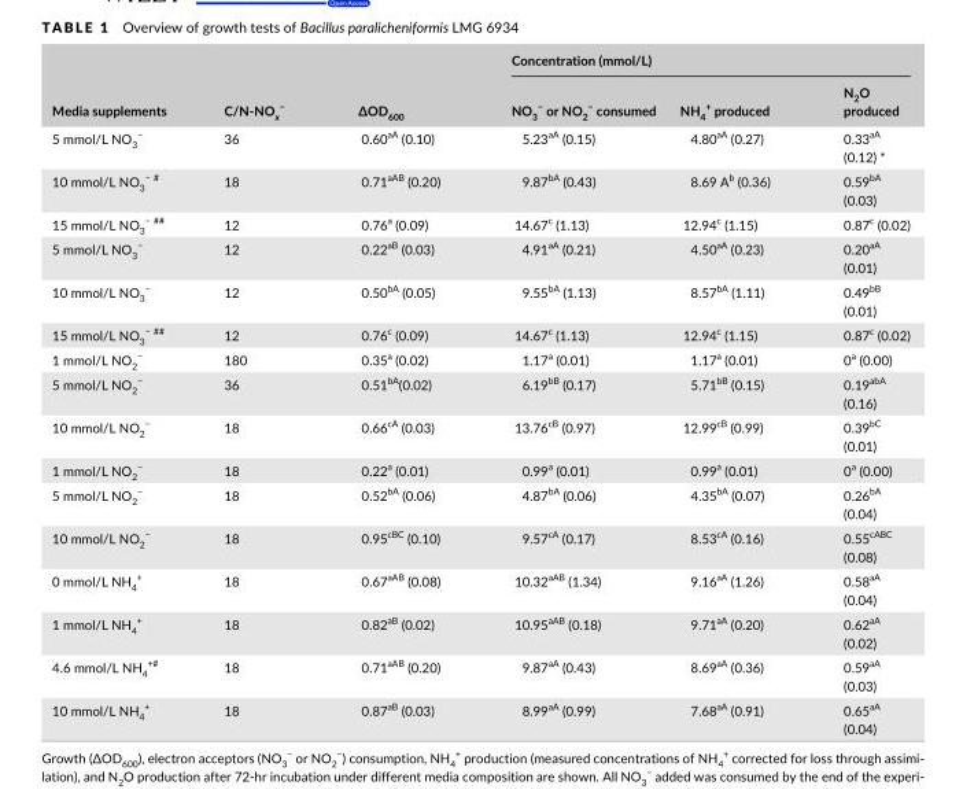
<table><thead><tr><td rowspan="2">Media supplements</td><td rowspan="2">C/N- NO<sub>x</sub> <sup>−</sup></td><td rowspan="2">∆OD<sub>600</sub></td><td colspan="3">Concentration (mmol/L)</td></tr><tr><td>NO<sub>3</sub> <sup>−</sup> or NO<sub>2</sub> <sup>−</sup> consumed</td><td>NH<sub>4</sub> <sup>+</sup> produced</td><td>N<sub>2</sub>O produced</td></tr></thead><tbody><tr><td>5 mmol/L NO<sub>3</sub> <sup>−</sup></td><td>36</td><td>0.60<sup>aA</sup> (0.10)</td><td>5.23<sup>aA</sup> (0.15)</td><td>4.80<sup>aA</sup> (0.27)</td><td>0.33<sup>aA</sup> (0.12) *</td></tr><tr><td>10 mmol/L NO<sub>3</sub> <sup>−</sup> #</td><td>18</td><td>0.71<sup>aAB</sup> (0.20)</td><td>9.87<sup>bA</sup> (0.43)</td><td>8.69 A<sup>b</sup> (0.36)</td><td>0.59<sup>bA</sup> (0.03)</td></tr><tr><td>15 mmol/L NO<sub>3</sub> <sup>−</sup> ##</td><td>12</td><td>0.76<sup>a</sup> (0.09)</td><td>14.67<sup>c</sup> (1.13)</td><td>12.94<sup>c</sup> (1.15)</td><td>0.87<sup>c</sup> (0.02)</td></tr><tr><td>5 mmol/L NO<sub>3</sub> <sup>−</sup></td><td>12</td><td>0.22<sup>aB</sup> (0.03)</td><td>4.91<sup>aA</sup> (0.21)</td><td>4.50<sup>aA</sup> (0.23)</td><td>0.20<sup>aA</sup> (0.01)</td></tr><tr><td>10 mmol/L NO<sub>3</sub> <sup>−</sup></td><td>12</td><td>0.50<sup>bA</sup> (0.05)</td><td>9.55<sup>bA</sup> (1.13)</td><td>8.57<sup>bA</sup> (1.11)</td><td>0.49<sup>bB</sup> (0.01)</td></tr><tr><td>15 mmol/L NO<sub>3</sub> <sup>−</sup> ##</td><td>12</td><td>0.76<sup>c</sup> (0.09)</td><td>14.67<sup>c</sup> (1.13)</td><td>12.94<sup>c</sup> (1.15)</td><td>0.87<sup>c</sup> (0.02)</td></tr><tr><td>1 mmol/L NO<sub>2</sub> <sup>−</sup></td><td>180</td><td>0.35<sup>a</sup> (0.02)</td><td>1.17<sup>a</sup> (0.01)</td><td>1.17<sup>a</sup> (0.01)</td><td>0<sup>a</sup> (0.00)</td></tr><tr><td>5 mmol/L NO<sub>2</sub> <sup>−</sup></td><td>36</td><td>0.51<sup>bA</sup>(0.02)</td><td>6.19<sup>bB</sup> (0.17)</td><td>5.71<sup>bB</sup> (0.15)</td><td>0.19<sup>abA</sup> (0.16)</td></tr><tr><td>10 mmol/L NO<sub>2</sub> <sup>−</sup></td><td>18</td><td>0.66<sup>cA</sup> (0.03)</td><td>13.76<sup>cB</sup> (0.97)</td><td>12.99<sup>cB</sup> (0.99)</td><td>0.39<sup>bC</sup> (0.01)</td></tr><tr><td>1 mmol/L NO<sub>2</sub> <sup>−</sup></td><td>18</td><td>0.22<sup>a</sup> (0.01)</td><td>0.99<sup>a</sup> (0.01)</td><td>0.99<sup>a</sup> (0.01)</td><td>0<sup>a</sup> (0.00)</td></tr><tr><td>5 mmol/L NO<sub>2</sub> <sup>−</sup></td><td>18</td><td>0.52<sup>bA</sup> (0.06)</td><td>4.87<sup>bA</sup> (0.06)</td><td>4.35<sup>bA</sup> (0.07)</td><td>0.26<sup>bA</sup> (0.04)</td></tr><tr><td>10 mmol/L NO<sub>2</sub> <sup>−</sup></td><td>18</td><td>0.95<sup>cBC</sup> (0.10)</td><td>9.57<sup>cA</sup> (0.17)</td><td>8.53<sup>cA</sup> (0.16)</td><td>0.55<sup>cABC</sup> (0.08)</td></tr><tr><td>0 mmol/L NH<sub>4</sub> <sup>+</sup></td><td>18</td><td>0.67<sup>aAB</sup> (0.08)</td><td>10.32<sup>aAB</sup> (1.34)</td><td>9.16<sup>aA</sup> (1.26)</td><td>0.58<sup>aA</sup> (0.04)</td></tr><tr><td>1 mmol/L NH<sub>4</sub> <sup>+</sup></td><td>18</td><td>0.82<sup>aB</sup> (0.02)</td><td>10.95<sup>aAB</sup> (0.18)</td><td>9.71<sup>aA</sup> (0.20)</td><td>0.62<sup>aA</sup> (0.02)</td></tr><tr><td>4.6 mmol/L NH<sub>4</sub> <sup>+</sup>#</td><td>18</td><td>0.71<sup>aAB</sup> (0.20)</td><td>9.87<sup>aA</sup> (0.43)</td><td>8.69<sup>aA</sup> (0.36)</td><td>0.59<sup>aA</sup> (0.03)</td></tr><tr><td>10 mmol/L NH<sub>4</sub> <sup>+</sup></td><td>18</td><td>0.87<sup>aB</sup> (0.03)</td><td>8.99<sup>aA</sup> (0.99)</td><td>7.68<sup>aA</sup> (0.91)</td><td>0.65<sup>aA</sup> (0.04)</td></tr></tbody></table>